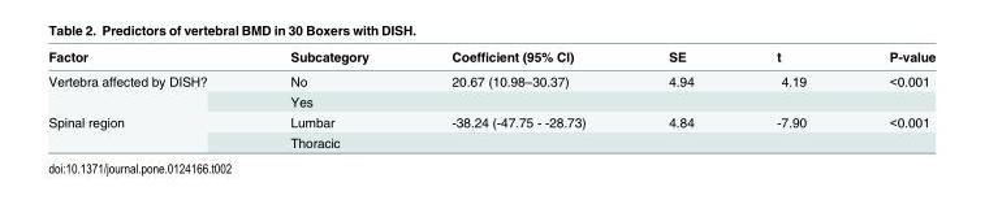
<table><thead><tr><td>Factor</td><td>Subcategory</td><td>Coefficient (95% CI)</td><td>SE</td><td>t</td><td>P-value</td></tr></thead><tbody><tr><td rowspan="2">Vertebra affected by DISH?</td><td>No</td><td>20.67 (10.98–30.37)</td><td>4.94</td><td>4.19</td><td>&lt;0.001</td></tr><tr><td>Yes</td><td colspan="4"></td></tr><tr><td rowspan="2">Spinal region</td><td>Lumbar</td><td>-38.24 (-47.75 - -28.73)</td><td>4.84</td><td>-7.90</td><td>&lt;0.001</td></tr><tr><td>Thoracic</td><td colspan="4"></td></tr></tbody></table>